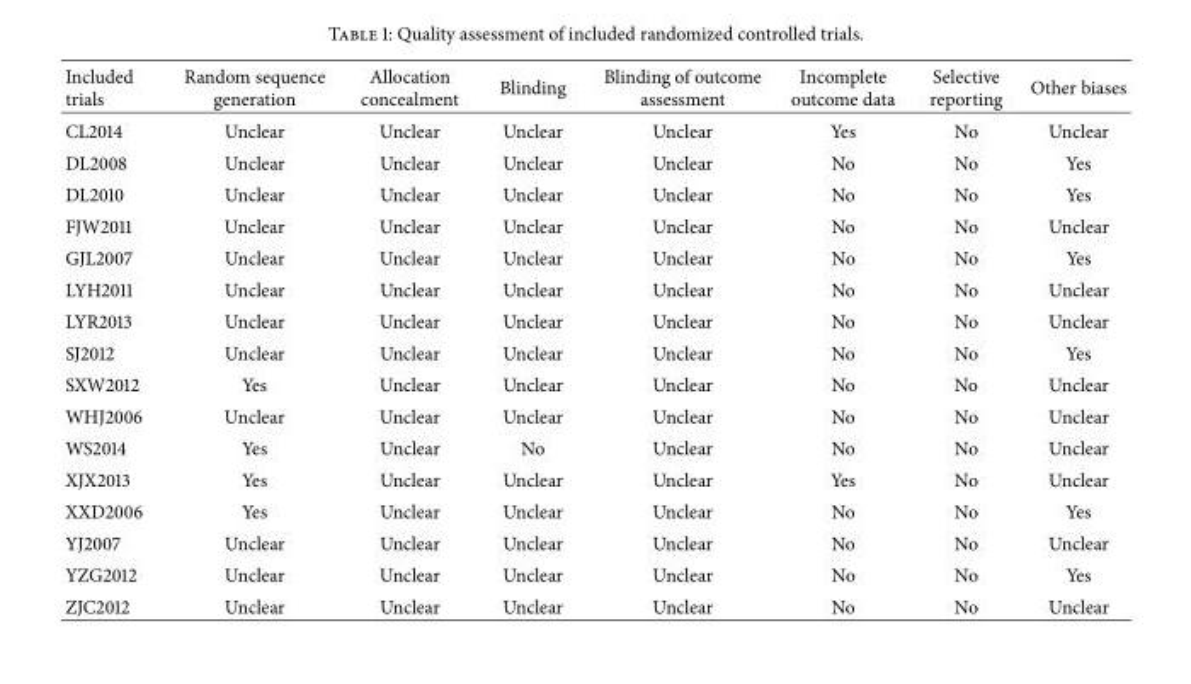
<table><thead><tr><td>Included trials</td><td>Random sequence generation</td><td>Allocation concealment</td><td>Blinding</td><td>Blinding of outcome assessment</td><td>Incomplete outcome data</td><td>Selective reporting</td><td>Other biases</td></tr></thead><tbody><tr><td>CL2014</td><td>Unclear</td><td>Unclear</td><td>Unclear</td><td>Unclear</td><td>Yes</td><td>No</td><td>Unclear</td></tr><tr><td>DL2008</td><td>Unclear</td><td>Unclear</td><td>Unclear</td><td>Unclear</td><td>No</td><td>No</td><td>Yes</td></tr><tr><td>DL2010</td><td>Unclear</td><td>Unclear</td><td>Unclear</td><td>Unclear</td><td>No</td><td>No</td><td>Yes</td></tr><tr><td>FJW2011</td><td>Unclear</td><td>Unclear</td><td>Unclear</td><td>Unclear</td><td>No</td><td>No</td><td>Unclear</td></tr><tr><td>GJL2007</td><td>Unclear</td><td>Unclear</td><td>Unclear</td><td>Unclear</td><td>No</td><td>No</td><td>Yes</td></tr><tr><td>LYH2011</td><td>Unclear</td><td>Unclear</td><td>Unclear</td><td>Unclear</td><td>No</td><td>No</td><td>Unclear</td></tr><tr><td>LYR2013</td><td>Unclear</td><td>Unclear</td><td>Unclear</td><td>Unclear</td><td>No</td><td>No</td><td>Unclear</td></tr><tr><td>SJ2012</td><td>Unclear</td><td>Unclear</td><td>Unclear</td><td>Unclear</td><td>No</td><td>No</td><td>Yes</td></tr><tr><td>SXW2012</td><td>Yes</td><td>Unclear</td><td>Unclear</td><td>Unclear</td><td>No</td><td>No</td><td>Unclear</td></tr><tr><td>WHJ2006</td><td>Unclear</td><td>Unclear</td><td>Unclear</td><td>Unclear</td><td>No</td><td>No</td><td>Unclear</td></tr><tr><td>WS2014</td><td>Yes</td><td>Unclear</td><td>No</td><td>Unclear</td><td>No</td><td>No</td><td>Unclear</td></tr><tr><td>XJX2013</td><td>Yes</td><td>Unclear</td><td>Unclear</td><td>Unclear</td><td>Yes</td><td>No</td><td>Unclear</td></tr><tr><td>XXD2006</td><td>Yes</td><td>Unclear</td><td>Unclear</td><td>Unclear</td><td>No</td><td>No</td><td>Yes</td></tr><tr><td>YJ2007</td><td>Unclear</td><td>Unclear</td><td>Unclear</td><td>Unclear</td><td>No</td><td>No</td><td>Unclear</td></tr><tr><td>YZG2012</td><td>Unclear</td><td>Unclear</td><td>Unclear</td><td>Unclear</td><td>No</td><td>No</td><td>Yes</td></tr><tr><td>ZJC2012</td><td>Unclear</td><td>Unclear</td><td>Unclear</td><td>Unclear</td><td>No</td><td>No</td><td>Unclear</td></tr></tbody></table>